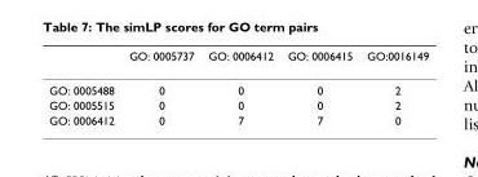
<table><thead><tr><td></td><td>GO: 0005737</td><td>GO: 0006412</td><td>GO: 0006415</td><td>GO:0016149</td></tr></thead><tbody><tr><td>GO: 0005488</td><td>0</td><td>0</td><td>0</td><td>2</td></tr><tr><td>GO: 0005515</td><td>0</td><td>0</td><td>0</td><td>2</td></tr><tr><td>GO: 0006412</td><td>0</td><td>7</td><td>7</td><td>0</td></tr></tbody></table>